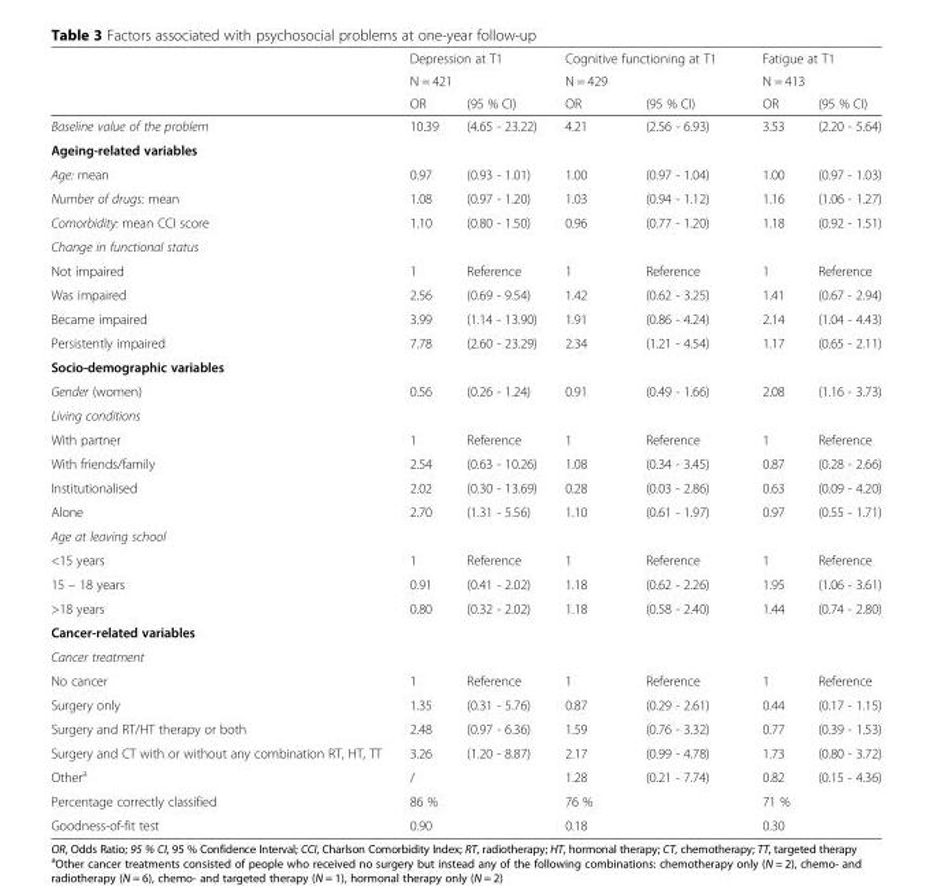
<table><thead><tr><td rowspan="3"></td><td rowspan="2" colspan="2">Depression at T1 N = 421</td><td rowspan="2" colspan="2">Cognitive functioning at T1 N = 429</td><td rowspan="2" colspan="2">Fatigue at T1 N = 413</td></tr><tr></tr><tr><td>OR</td><td>(95 % CI)</td><td>OR</td><td>(95 % CI)</td><td>OR</td><td>(95 % CI)</td></tr></thead><tbody><tr><td>Baseline value of the problem</td><td>10.39</td><td>(4.65 - 23.22)</td><td>4.21</td><td>(2.56 - 6.93)</td><td>3.53</td><td>(2.20 - 5.64)</td></tr><tr><td colspan="7">Ageing-related variables</td></tr><tr><td>Age: mean</td><td>0.97</td><td>(0.93 - 1.01)</td><td>1.00</td><td>(0.97 - 1.04)</td><td>1.00</td><td>(0.97 - 1.03)</td></tr><tr><td>Number of drugs: mean</td><td>1.08</td><td>(0.97 - 1.20)</td><td>1.03</td><td>(0.94 - 1.12)</td><td>1.16</td><td>(1.06 - 1.27)</td></tr><tr><td>Comorbidity: mean CCI score</td><td>1.10</td><td>(0.80 - 1.50)</td><td>0.96</td><td>(0.77 - 1.20)</td><td>1.18</td><td>(0.92 - 1.51)</td></tr><tr><td colspan="7">Change in functional status</td></tr><tr><td>Not impaired</td><td>1</td><td>Reference</td><td>1</td><td>Reference</td><td>1</td><td>Reference</td></tr><tr><td>Was impaired</td><td>2.56</td><td>(0.69 - 9.54)</td><td>1.42</td><td>(0.62 - 3.25)</td><td>1.41</td><td>(0.67 - 2.94)</td></tr><tr><td>Became impaired</td><td>3.99</td><td>(1.14 - 13.90)</td><td>1.91</td><td>(0.86 - 4.24)</td><td>2.14</td><td>(1.04 - 4.43)</td></tr><tr><td>Persistently impaired</td><td>7.78</td><td>(2.60 - 23.29)</td><td>2.34</td><td>(1.21 - 4.54)</td><td>1.17</td><td>(0.65 - 2.11)</td></tr><tr><td colspan="7">Socio-demographic variables</td></tr><tr><td>Gender (women)</td><td>0.56</td><td>(0.26 - 1.24)</td><td>0.91</td><td>(0.49 - 1.66)</td><td>2.08</td><td>(1.16 - 3.73)</td></tr><tr><td colspan="7">Living conditions</td></tr><tr><td>With partner</td><td>1</td><td>Reference</td><td>1</td><td>Reference</td><td>1</td><td>Reference</td></tr><tr><td>With friends/family</td><td>2.54</td><td>(0.63 - 10.26)</td><td>1.08</td><td>(0.34 - 3.45)</td><td>0.87</td><td>(0.28 - 2.66)</td></tr><tr><td>Institutionalised</td><td>2.02</td><td>(0.30 - 13.69)</td><td>0.28</td><td>(0.03 - 2.86)</td><td>0.63</td><td>(0.09 - 4.20)</td></tr><tr><td>Alone</td><td>2.70</td><td>(1.31 - 5.56)</td><td>1.10</td><td>(0.61 - 1.97)</td><td>0.97</td><td>(0.55 - 1.71)</td></tr><tr><td colspan="7">Age at leaving school</td></tr><tr><td>&lt;15 years</td><td>1</td><td>Reference</td><td>1</td><td>Reference</td><td>1</td><td>Reference</td></tr><tr><td>15 – 18 years</td><td>0.91</td><td>(0.41 - 2.02)</td><td>1.18</td><td>(0.62 - 2.26)</td><td>1.95</td><td>(1.06 - 3.61)</td></tr><tr><td>&gt;18 years</td><td>0.80</td><td>(0.32 - 2.02)</td><td>1.18</td><td>(0.58 - 2.40)</td><td>1.44</td><td>(0.74 - 2.80)</td></tr><tr><td colspan="7">Cancer-related variables</td></tr><tr><td colspan="7">Cancer treatment</td></tr><tr><td>No cancer</td><td>1</td><td>Reference</td><td>1</td><td>Reference</td><td>1</td><td>Reference</td></tr><tr><td>Surgery only</td><td>1.35</td><td>(0.31 - 5.76)</td><td>0.87</td><td>(0.29 - 2.61)</td><td>0.44</td><td>(0.17 - 1.15)</td></tr><tr><td>Surgery and RT/HT therapy or both</td><td>2.48</td><td>(0.97 - 6.36)</td><td>1.59</td><td>(0.76 - 3.32)</td><td>0.77</td><td>(0.39 - 1.53)</td></tr><tr><td>Surgery and CT with or without any combination RT, HT, TT</td><td>3.26</td><td>(1.20 - 8.87)</td><td>2.17</td><td>(0.99 - 4.78)</td><td>1.73</td><td>(0.80 - 3.72)</td></tr><tr><td>Other<sup>a</sup></td><td>/</td><td></td><td>1.28</td><td>(0.21 - 7.74)</td><td>0.82</td><td>(0.15 - 4.36)</td></tr><tr><td>Percentage correctly classified</td><td>86 %</td><td></td><td>76 %</td><td></td><td>71 %</td><td></td></tr><tr><td>Goodness-of-fit test</td><td>0.90</td><td></td><td>0.18</td><td></td><td>0.30</td><td></td></tr></tbody></table>